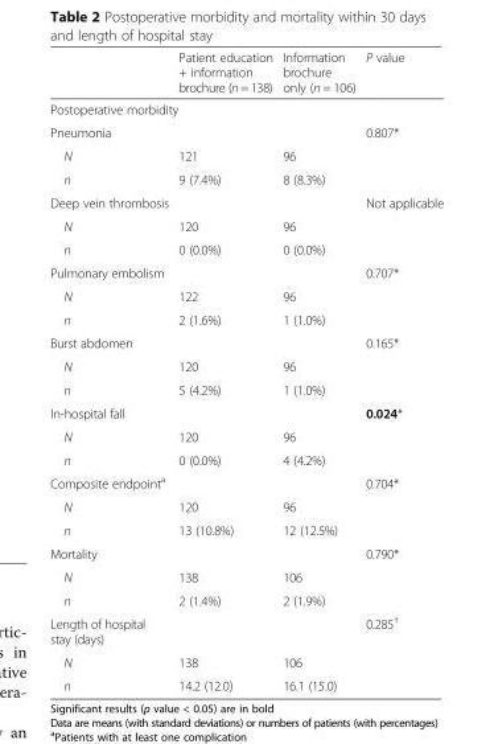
<table><thead><tr><td></td><td>Patient education + information brochure (n = 138)</td><td>Information brochure only (n = 106)</td><td>P value</td></tr></thead><tbody><tr><td colspan="4">Postoperative morbidity</td></tr><tr><td>Pneumonia</td><td></td><td></td><td>0.807*</td></tr><tr><td>N</td><td>121</td><td>96</td><td></td></tr><tr><td>n</td><td>9 (7.4%)</td><td>8 (8.3%)</td><td></td></tr><tr><td>Deep vein thrombosis</td><td></td><td></td><td>Not applicable</td></tr><tr><td>N</td><td>120</td><td>96</td><td></td></tr><tr><td>n</td><td>0 (0.0%)</td><td>0 (0.0%)</td><td></td></tr><tr><td>Pulmonary embolism</td><td></td><td></td><td>0.707*</td></tr><tr><td>N</td><td>122</td><td>96</td><td></td></tr><tr><td>n</td><td>2 (1.6%)</td><td>1 (1.0%)</td><td></td></tr><tr><td>Burst abdomen</td><td></td><td></td><td>0.165*</td></tr><tr><td>N</td><td>120</td><td>96</td><td></td></tr><tr><td>n</td><td>5 (4.2%)</td><td>1 (1.0%)</td><td></td></tr><tr><td>In-hospital fall</td><td></td><td></td><td>0.024*</td></tr><tr><td>N</td><td>120</td><td>96</td><td></td></tr><tr><td>n</td><td>0 (0.0%)</td><td>4 (4.2%)</td><td></td></tr><tr><td>Composite endpoint<sup>a</sup></td><td></td><td></td><td>0.704*</td></tr><tr><td>N</td><td>120</td><td>96</td><td></td></tr><tr><td>n</td><td>13 (10.8%)</td><td>12 (12.5%)</td><td></td></tr><tr><td>Mortality</td><td></td><td></td><td>0.790*</td></tr><tr><td>N</td><td>138</td><td>106</td><td></td></tr><tr><td>n</td><td>2 (1.4%)</td><td>2 (1.9%)</td><td></td></tr><tr><td>Length of hospital stay (days)</td><td></td><td></td><td>0.285<sup>†</sup></td></tr><tr><td>N</td><td>138</td><td>106</td><td></td></tr><tr><td>n</td><td>14.2 (12.0)</td><td>16.1 (15.0)</td><td></td></tr></tbody></table>